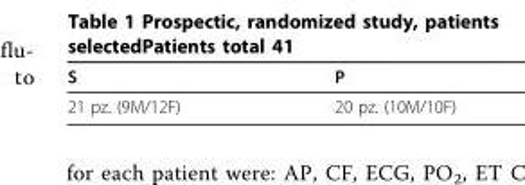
<table><thead><tr><td>S</td><td>P</td></tr></thead><tbody><tr><td>21 pz. (9M/12F)</td><td>20 pz. (10M/10F)</td></tr></tbody></table>